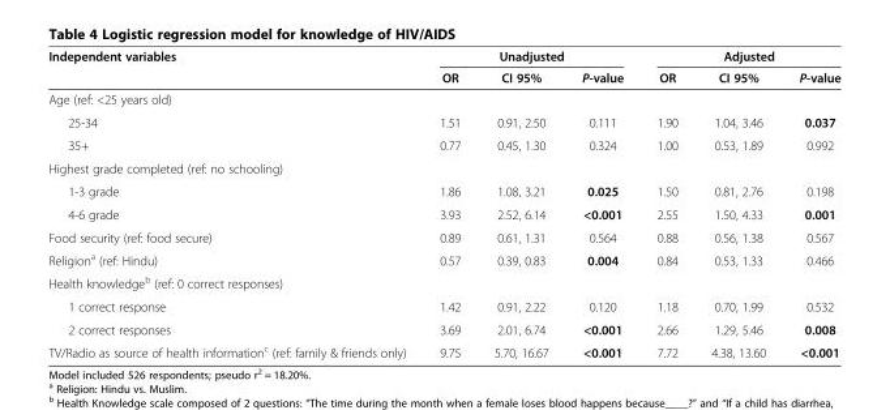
<table><thead><tr><td rowspan="2">Independent variables</td><td colspan="3">Unadjusted</td><td colspan="3">Adjusted</td></tr><tr><td>OR</td><td>CI 95%</td><td>P-value</td><td>OR</td><td>CI 95%</td><td>P-value</td></tr></thead><tbody><tr><td colspan="7">Age (ref: &lt;25 years old)</td></tr><tr><td>25-34</td><td>1.51</td><td>0.91, 2.50</td><td>0.111</td><td>1.90</td><td>1.04, 3.46</td><td>0.037</td></tr><tr><td>35+</td><td>0.77</td><td>0.45, 1.30</td><td>0.324</td><td>1.00</td><td>0.53, 1.89</td><td>0.992</td></tr><tr><td colspan="7">Highest grade completed (ref: no schooling)</td></tr><tr><td>1-3 grade</td><td>1.86</td><td>1.08, 3.21</td><td>0.025</td><td>1.50</td><td>0.81, 2.76</td><td>0.198</td></tr><tr><td>4-6 grade</td><td>3.93</td><td>2.52, 6.14</td><td>&lt;0.001</td><td>2.55</td><td>1.50, 4.33</td><td>0.001</td></tr><tr><td>Food security (ref: food secure)</td><td>0.89</td><td>0.61, 1.31</td><td>0.564</td><td>0.88</td><td>0.56, 1.38</td><td>0.567</td></tr><tr><td>Religion<sup>a</sup> (ref: Hindu)</td><td>0.57</td><td>0.39, 0.83</td><td>0.004</td><td>0.84</td><td>0.53, 1.33</td><td>0.466</td></tr><tr><td colspan="7">Health knowledge<sup>b</sup> (ref: 0 correct responses)</td></tr><tr><td>1 correct response</td><td>1.42</td><td>0.91, 2.22</td><td>0.120</td><td>1.18</td><td>0.70, 1.99</td><td>0.532</td></tr><tr><td>2 correct responses</td><td>3.69</td><td>2.01, 6.74</td><td>&lt;0.001</td><td>2.66</td><td>1.29, 5.46</td><td>0.008</td></tr><tr><td>TV/Radio as source of health information<sup>c</sup> (ref: family &amp; friends only)</td><td>9.75</td><td>5.70, 16.67</td><td>&lt;0.001</td><td>7.72</td><td>4.38, 13.60</td><td>&lt;0.001</td></tr></tbody></table>